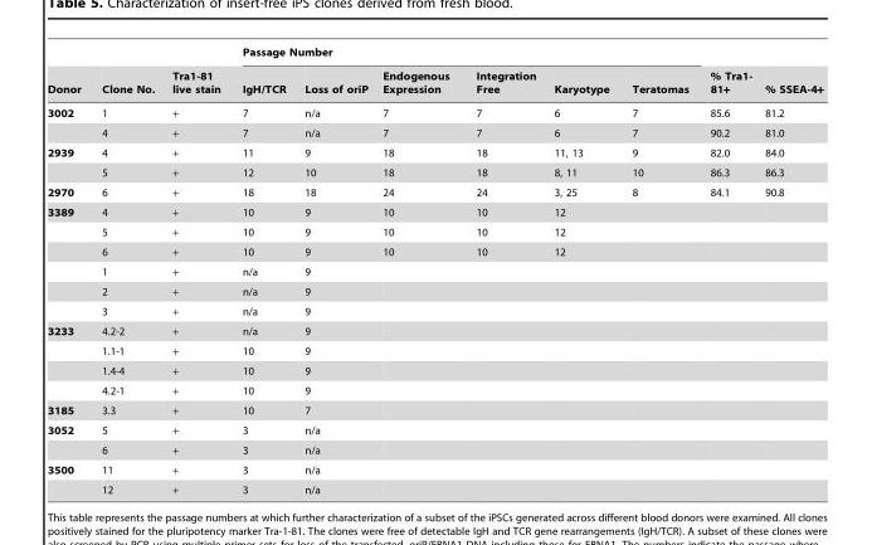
<table><thead><tr><td rowspan="2">Donor</td><td rowspan="2">Clone No.</td><td rowspan="2">Tra1-81 live stain</td><td colspan="6">Passage Number</td><td rowspan="2">% Tra1- 81+</td><td rowspan="2">% SSEA-4+</td></tr><tr><td>IgH/TCR</td><td>Loss of oriP</td><td>Endogenous Expression</td><td>Integration Free</td><td>Karyotype</td><td>Teratomas</td></tr></thead><tbody><tr><td rowspan="2">3002</td><td>1</td><td>+</td><td>7</td><td>n/a</td><td>7</td><td>7</td><td>6</td><td>7</td><td>85.6</td><td>81.2</td></tr><tr><td>4</td><td>+</td><td>7</td><td>n/a</td><td>7</td><td>7</td><td>6</td><td>7</td><td>90.2</td><td>81.0</td></tr><tr><td rowspan="2">2939</td><td>4</td><td>+</td><td>11</td><td>9</td><td>18</td><td>18</td><td>11, 13</td><td>9</td><td>82.0</td><td>84.0</td></tr><tr><td>5</td><td>+</td><td>12</td><td>10</td><td>18</td><td>18</td><td>8, 11</td><td>10</td><td>86.3</td><td>86.3</td></tr><tr><td>2970</td><td>6</td><td>+</td><td>18</td><td>18</td><td>24</td><td>24</td><td>3, 25</td><td>8</td><td>84.1</td><td>90.8</td></tr><tr><td rowspan="6">3389</td><td>4</td><td>+</td><td>10</td><td>9</td><td>10</td><td>10</td><td>12</td><td></td><td></td><td></td></tr><tr><td>5</td><td>+</td><td>10</td><td>9</td><td>10</td><td>10</td><td>12</td><td></td><td></td><td></td></tr><tr><td>6</td><td>+</td><td>10</td><td>9</td><td>10</td><td>10</td><td>12</td><td></td><td></td><td></td></tr><tr><td>1</td><td>+</td><td>n/a</td><td>9</td><td></td><td></td><td></td><td></td><td></td><td></td></tr><tr><td>2</td><td>+</td><td>n/a</td><td>9</td><td></td><td></td><td></td><td></td><td></td><td></td></tr><tr><td>3</td><td>+</td><td>n/a</td><td>9</td><td></td><td></td><td></td><td></td><td></td><td></td></tr><tr><td rowspan="4">3233</td><td>4.2-2</td><td>+</td><td>n/a</td><td>9</td><td></td><td></td><td></td><td></td><td></td><td></td></tr><tr><td>1.1-1</td><td>+</td><td>10</td><td>9</td><td></td><td></td><td></td><td></td><td></td><td></td></tr><tr><td>1.4-4</td><td>+</td><td>10</td><td>9</td><td></td><td></td><td></td><td></td><td></td><td></td></tr><tr><td>4.2-1</td><td>+</td><td>10</td><td>9</td><td></td><td></td><td></td><td></td><td></td><td></td></tr><tr><td>3185</td><td>3.3</td><td>+</td><td>10</td><td>7</td><td></td><td></td><td></td><td></td><td></td><td></td></tr><tr><td rowspan="2">3052</td><td>5</td><td>+</td><td>3</td><td>n/a</td><td></td><td></td><td></td><td></td><td></td><td></td></tr><tr><td>6</td><td>+</td><td>3</td><td>n/a</td><td></td><td></td><td></td><td></td><td></td><td></td></tr><tr><td rowspan="2">3500</td><td>11</td><td>+</td><td>3</td><td>n/a</td><td></td><td></td><td></td><td></td><td></td><td></td></tr><tr><td>12</td><td>+</td><td>3</td><td>n/a</td><td></td><td></td><td></td><td></td><td></td><td></td></tr></tbody></table>